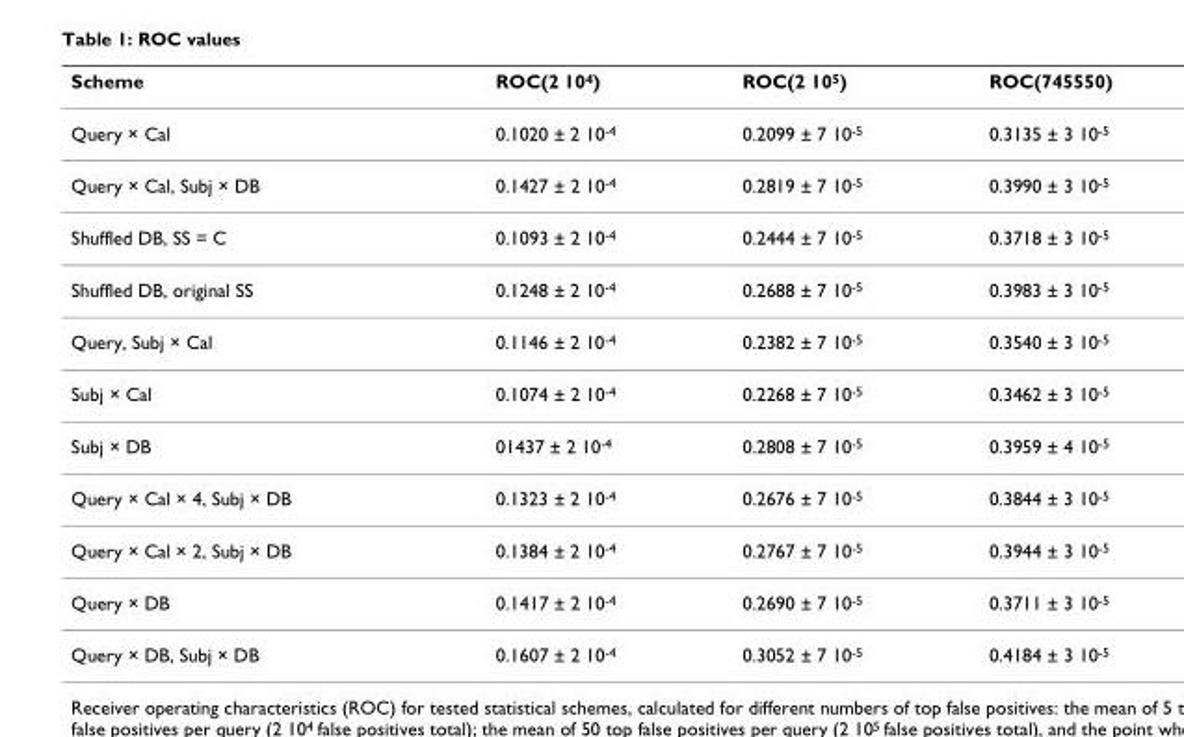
<table><thead><tr><td>Scheme</td><td>ROC(2 10<sup>4</sup>)</td><td>ROC(2 10<sup>5</sup>)</td><td>ROC(745550)</td></tr></thead><tbody><tr><td>Query × Cal</td><td>0.1020 ± 2 10<sup>-4</sup></td><td>0.2099 ± 7 10<sup>-5</sup></td><td>0.3135 ± 3 10<sup>-5</sup></td></tr><tr><td>Query × Cal, Subj × DB</td><td>0.1427 ± 2 10<sup>-4</sup></td><td>0.2819 ± 7 10<sup>-5</sup></td><td>0.3990 ± 3 10<sup>-5</sup></td></tr><tr><td>Shuffled DB, SS = C</td><td>0.1093 ± 2 10<sup>-4</sup></td><td>0.2444 ± 7 10<sup>-5</sup></td><td>0.3718 ± 3 10<sup>-5</sup></td></tr><tr><td>Shuffled DB, original SS</td><td>0.1248 ± 2 10<sup>-4</sup></td><td>0.2688 ± 7 10<sup>-5</sup></td><td>0.3983 ± 3 10<sup>-5</sup></td></tr><tr><td>Query, Subj × Cal</td><td>0.1146 ± 2 10<sup>-4</sup></td><td>0.2382 ± 7 10<sup>-5</sup></td><td>0.3540 ± 3 10<sup>-5</sup></td></tr><tr><td>Subj × Cal</td><td>0.1074 ± 2 10<sup>-4</sup></td><td>0.2268 ± 7 10<sup>-5</sup></td><td>0.3462 ± 3 10<sup>-5</sup></td></tr><tr><td>Subj × DB</td><td>01437 ± 2 10<sup>-4</sup></td><td>0.2808 ± 7 10<sup>-5</sup></td><td>0.3959 ± 4 10<sup>-5</sup></td></tr><tr><td>Query × Cal × 4, Subj × DB</td><td>0.1323 ± 2 10<sup>-4</sup></td><td>0.2676 ± 7 10<sup>-5</sup></td><td>0.3844 ± 3 10<sup>-5</sup></td></tr><tr><td>Query × Cal × 2, Subj × DB</td><td>0.1384 ± 2 10<sup>-4</sup></td><td>0.2767 ± 7 10<sup>-5</sup></td><td>0.3944 ± 3 10<sup>-5</sup></td></tr><tr><td>Query × DB</td><td>0.1417 ± 2 10<sup>-4</sup></td><td>0.2690 ± 7 10<sup>-5</sup></td><td>0.3711 ± 3 10<sup>-5</sup></td></tr><tr><td>Query × DB, Subj × DB</td><td>0.1607 ± 2 10<sup>-4</sup></td><td>0.3052 ± 7 10<sup>-5</sup></td><td>0.4184 ± 3 10<sup>-5</sup></td></tr></tbody></table>